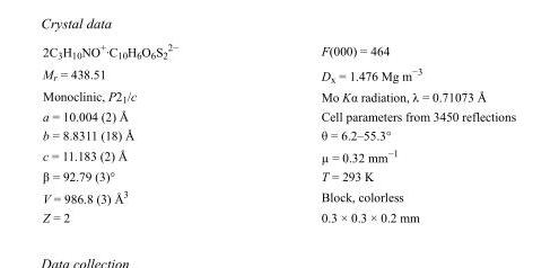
<table><tbody><tr><td>2C<sub>3</sub>H<sub>10</sub>NO<sup>+</sup>·C<sub>10</sub>H<sub>6</sub>O<sub>6</sub>S<sub>2</sub> <sup>2−</sup></td><td>F(000) = 464</td></tr><tr><td>M<sub>r</sub> = 438.51</td><td>D<sub>x</sub> = 1.476 Mg m<sup>−3</sup></td></tr><tr><td>Monoclinic, P2<sub>1</sub>/c</td><td>Mo Kα radiation, λ = 0.71073 Å</td></tr><tr><td>a = 10.004 (2) Å</td><td>Cell parameters from 3450 reflections</td></tr><tr><td>b = 8.8311 (18) Å</td><td>θ = 6.2–55.3°</td></tr><tr><td>c = 11.183 (2) Å</td><td>µ = 0.32 mm<sup>−1</sup></td></tr><tr><td>β = 92.79 (3)°</td><td>T = 293 K</td></tr><tr><td>V = 986.8 (3) Å<sup>3</sup></td><td>Block, colorless</td></tr><tr><td>Z = 2</td><td>0.3 × 0.3 × 0.2 mm</td></tr></tbody></table>